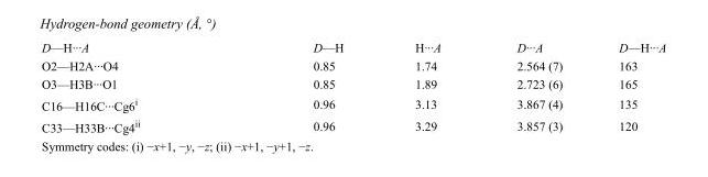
<table><tbody><tr><td>D—H···A</td><td>D—H</td><td>H···A</td><td>D···A</td><td>D—H···A</td></tr><tr><td>O2—H2A···O4</td><td>0.85</td><td>1.74</td><td>2.564 (7)</td><td>163</td></tr><tr><td>O3—H3B···O1</td><td>0.85</td><td>1.89</td><td>2.723 (6)</td><td>165</td></tr><tr><td>C16—H16C···Cg6<sup>i</sup></td><td>0.96</td><td>3.13</td><td>3.867 (4)</td><td>135</td></tr><tr><td>C33—H33B···Cg4<sup>ii</sup></td><td>0.96</td><td>3.29</td><td>3.857 (3)</td><td>120</td></tr></tbody></table>